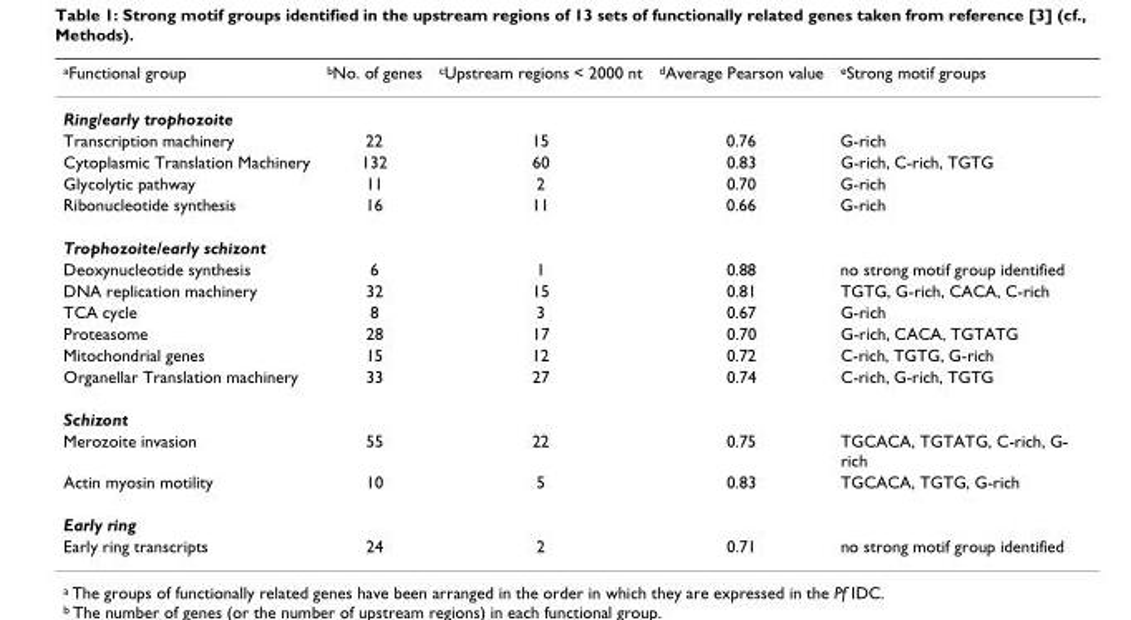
<table><thead><tr><td><sup>a</sup>Functional group</td><td><sup>b</sup>No. of genes</td><td><sup>c</sup>Upstream regions &lt; 2000 nt</td><td><sup>d</sup>Average Pearson value</td><td><sup>e</sup>Strong motif groups</td></tr></thead><tbody><tr><td colspan="5">Ring/early trophozoite</td></tr><tr><td>Transcription machinery</td><td>22</td><td>15</td><td>0.76</td><td>G-rich</td></tr><tr><td>Cytoplasmic Translation Machinery</td><td>132</td><td>60</td><td>0.83</td><td>G-rich, C-rich, TGTG</td></tr><tr><td>Glycolytic pathway</td><td>11</td><td>2</td><td>0.70</td><td>G-rich</td></tr><tr><td>Ribonucleotide synthesis</td><td>16</td><td>11</td><td>0.66</td><td>G-rich</td></tr><tr><td colspan="5">Trophozoite/early schizont</td></tr><tr><td>Deoxynucleotide synthesis</td><td>6</td><td>1</td><td>0.88</td><td>no strong motif group identified</td></tr><tr><td>DNA replication machinery</td><td>32</td><td>15</td><td>0.81</td><td>TGTG, G-rich, CACA, C-rich</td></tr><tr><td>TCA cycle</td><td>8</td><td>3</td><td>0.67</td><td>G-rich</td></tr><tr><td>Proteasome</td><td>28</td><td>17</td><td>0.70</td><td>G-rich, CACA, TGTATG</td></tr><tr><td>Mitochondrial genes</td><td>15</td><td>12</td><td>0.72</td><td>C-rich, TGTG, G-rich</td></tr><tr><td>Organellar Translation machinery</td><td>33</td><td>27</td><td>0.74</td><td>C-rich, G-rich, TGTG</td></tr><tr><td colspan="5">Schizont</td></tr><tr><td>Merozoite invasion</td><td>55</td><td>22</td><td>0.75</td><td>TGCACA, TGTATG, C-rich, G- rich</td></tr><tr><td>Actin myosin motility</td><td>10</td><td>5</td><td>0.83</td><td>TGCACA, TGTG, G-rich</td></tr><tr><td colspan="5">Early ring</td></tr><tr><td>Early ring transcripts</td><td>24</td><td>2</td><td>0.71</td><td>no strong motif group identified</td></tr></tbody></table>